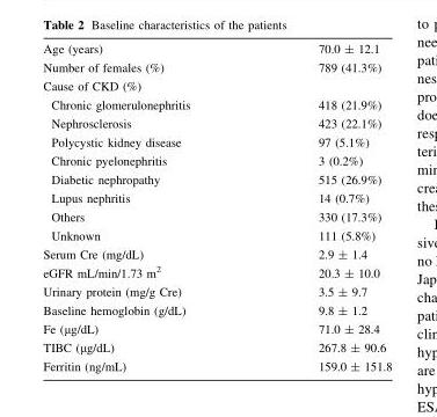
<table><tbody><tr><td>Age (years)</td><td>70.0 ± 12.1</td></tr><tr><td>Number of females (%)</td><td>789 (41.3%)</td></tr><tr><td colspan="2">Cause of CKD (%)</td></tr><tr><td>Chronic glomerulonephritis</td><td>418 (21.9%)</td></tr><tr><td>Nephrosclerosis</td><td>423 (22.1%)</td></tr><tr><td>Polycystic kidney disease</td><td>97 (5.1%)</td></tr><tr><td>Chronic pyelonephritis</td><td>3 (0.2%)</td></tr><tr><td>Diabetic nephropathy</td><td>515 (26.9%)</td></tr><tr><td>Lupus nephritis</td><td>14 (0.7%)</td></tr><tr><td>Others</td><td>330 (17.3%)</td></tr><tr><td>Unknown</td><td>111 (5.8%)</td></tr><tr><td>Serum Cre (mg/dL)</td><td>2.9 ± 1.4</td></tr><tr><td>eGFR mL/min/1.73 m<sup>2</sup></td><td>20.3 ± 10.0</td></tr><tr><td>Urinary protein (mg/g Cre)</td><td>3.5 ± 9.7</td></tr><tr><td>Baseline hemoglobin (g/dL)</td><td>9.8 ± 1.2</td></tr><tr><td>Fe (μg/dL)</td><td>71.0 ± 28.4</td></tr><tr><td>TIBC (μg/dL)</td><td>267.8 ± 90.6</td></tr><tr><td>Ferritin (ng/mL)</td><td>159.0 ± 151.8</td></tr></tbody></table>